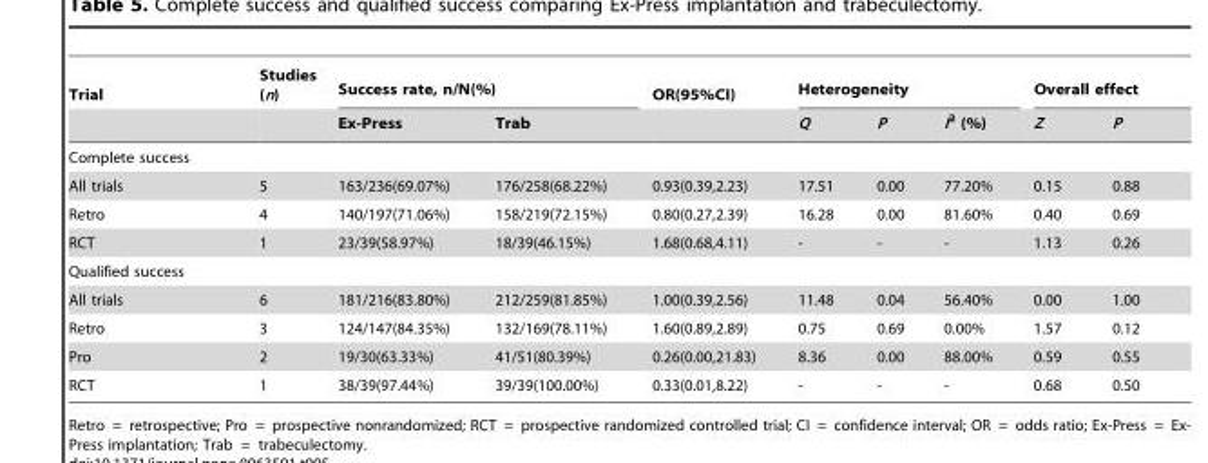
<table><thead><tr><td rowspan="2">Trial</td><td rowspan="2">Studies (n)</td><td colspan="2">Success rate, n/N(%)</td><td rowspan="2">OR(95%CI)</td><td colspan="3">Heterogeneity</td><td colspan="2">Overall effect</td></tr><tr><td>Ex-Press</td><td>Trab</td><td>Q</td><td>P</td><td>I<sup>2</sup> (%)</td><td>Z</td><td>P</td></tr></thead><tbody><tr><td colspan="10">Complete success</td></tr><tr><td>All trials</td><td>5</td><td>163/236(69.07%)</td><td>176/258(68.22%)</td><td>0.93(0.39,2.23)</td><td>17.51</td><td>0.00</td><td>77.20%</td><td>0.15</td><td>0.88</td></tr><tr><td>Retro</td><td>4</td><td>140/197(71.06%)</td><td>158/219(72.15%)</td><td>0.80(0.27,2.39)</td><td>16.28</td><td>0.00</td><td>81.60%</td><td>0.40</td><td>0.69</td></tr><tr><td>RCT</td><td>1</td><td>23/39(58.97%)</td><td>18/39(46.15%)</td><td>1.68(0.68,4.11)</td><td>-</td><td>-</td><td>-</td><td>1.13</td><td>0.26</td></tr><tr><td colspan="10">Qualified success</td></tr><tr><td>All trials</td><td>6</td><td>181/216(83.80%)</td><td>212/259(81.85%)</td><td>1.00(0.39,2.56)</td><td>11.48</td><td>0.04</td><td>56.40%</td><td>0.00</td><td>1.00</td></tr><tr><td>Retro</td><td>3</td><td>124/147(84.35%)</td><td>132/169(78.11%)</td><td>1.60(0.89,2.89)</td><td>0.75</td><td>0.69</td><td>0.00%</td><td>1.57</td><td>0.12</td></tr><tr><td>Pro</td><td>2</td><td>19/30(63.33%)</td><td>41/51(80.39%)</td><td>0.26(0.00,21.83)</td><td>8.36</td><td>0.00</td><td>88.00%</td><td>0.59</td><td>0.55</td></tr><tr><td>RCT</td><td>1</td><td>38/39(97.44%)</td><td>39/39(100.00%)</td><td>0.33(0.01,8.22)</td><td>-</td><td>-</td><td>-</td><td>0.68</td><td>0.50</td></tr></tbody></table>